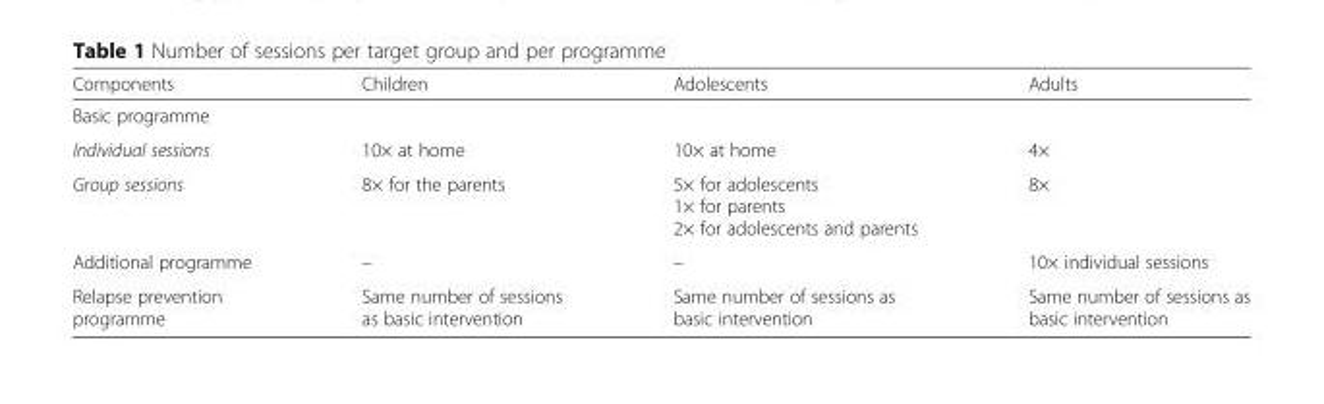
<table><thead><tr><td>Components</td><td>Children</td><td>Adolescents</td><td>Adults</td></tr></thead><tbody><tr><td colspan="4">Basic programme</td></tr><tr><td>Individual sessions</td><td>10× at home</td><td>10× at home</td><td>4×</td></tr><tr><td>Group sessions</td><td>8× for the parents</td><td>5× for adolescents 1× for parents 2× for adolescents and parents</td><td>8×</td></tr><tr><td>Additional programme</td><td>–</td><td>–</td><td>10× individual sessions</td></tr><tr><td>Relapse prevention programme</td><td>Same number of sessions as basic intervention</td><td>Same number of sessions as basic intervention</td><td>Same number of sessions as basic intervention</td></tr></tbody></table>